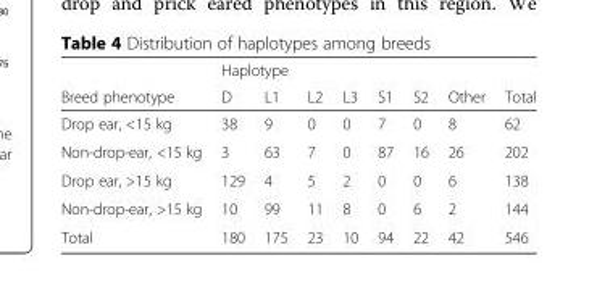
<table><thead><tr><td rowspan="2">Breed phenotype</td><td colspan="8">Haplotype</td></tr><tr><td>D</td><td>L1</td><td>L2</td><td>L3</td><td>S1</td><td>S2</td><td>Other</td><td>Total</td></tr></thead><tbody><tr><td>Drop ear, &lt;15 kg</td><td>38</td><td>9</td><td>0</td><td>0</td><td>7</td><td>0</td><td>8</td><td>62</td></tr><tr><td>Non-drop-ear, &lt;15 kg</td><td>3</td><td>63</td><td>7</td><td>0</td><td>87</td><td>16</td><td>26</td><td>202</td></tr><tr><td>Drop ear, &gt;15 kg</td><td>129</td><td>4</td><td>5</td><td>2</td><td>0</td><td>0</td><td>6</td><td>138</td></tr><tr><td>Non-drop-ear, &gt;15 kg</td><td>10</td><td>99</td><td>11</td><td>8</td><td>0</td><td>6</td><td>2</td><td>144</td></tr><tr><td>Total</td><td>180</td><td>175</td><td>23</td><td>10</td><td>94</td><td>22</td><td>42</td><td>546</td></tr></tbody></table>